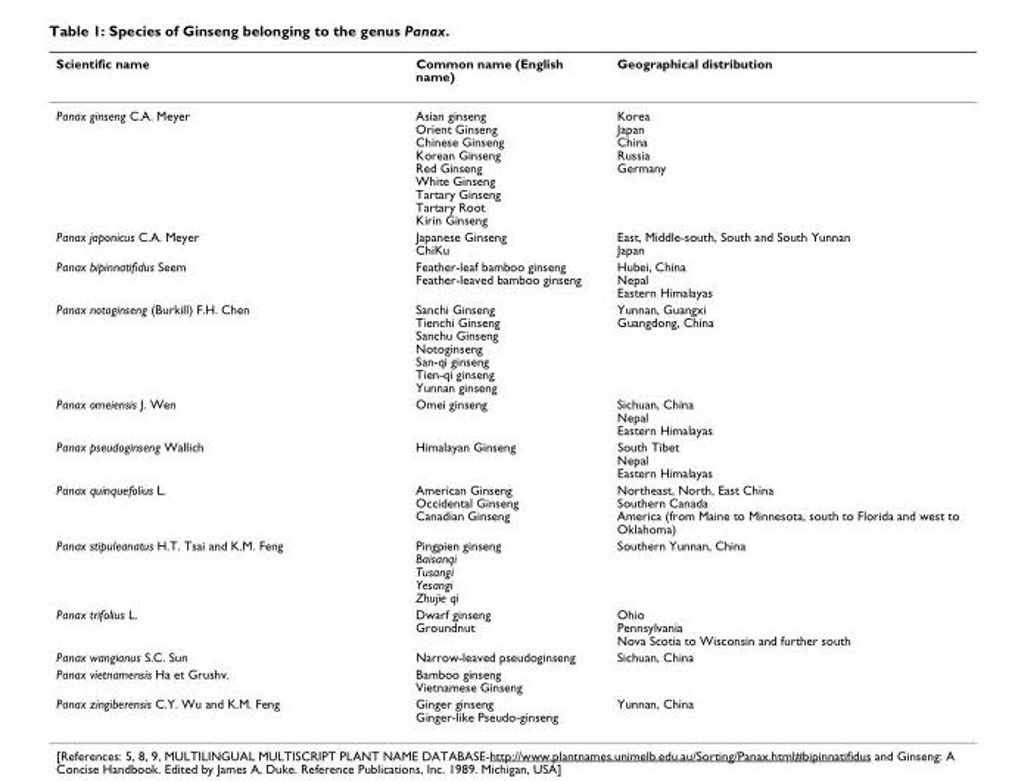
<table><thead><tr><td>Scientific name</td><td>Common name (English name)</td><td>Geographical distribution</td></tr></thead><tbody><tr><td>Panax ginseng C.A. Meyer</td><td>Asian ginseng Orient Ginseng Chinese Ginseng Korean Ginseng Red Ginseng White Ginseng Tartary Ginseng Tartary Root Kirin Ginseng</td><td>Korea Japan China Russia Germany</td></tr><tr><td>Panax japonicus C.A. Meyer</td><td>Japanese Ginseng ChiKu</td><td>East, Middle-south, South and South Yunnan Japan</td></tr><tr><td>Panax bipinnatifidus Seem</td><td>Feather-leaf bamboo ginseng Feather-leaved bamboo ginseng</td><td>Hubei, China Nepal Eastern Himalayas</td></tr><tr><td>Panax notoginseng (Burkill) F.H. Chen</td><td>Sanchi Ginseng Tienchi Ginseng Sanchu Ginseng Notoginseng San-qi ginseng Tien-qi ginseng Yunnan ginseng</td><td>Yunnan, Guangxi Guangdong, China</td></tr><tr><td>Panax omeiensis J. Wen</td><td>Omei ginseng</td><td>Sichuan, China Nepal Eastern Himalayas</td></tr><tr><td>Panax pseudoginseng Wallich</td><td>Himalayan Ginseng</td><td>South Tibet Nepal Eastern Himalayas</td></tr><tr><td>Panax quinquefolius L.</td><td>American Ginseng Occidental Ginseng Canadian Ginseng</td><td>Northeast, North, East China Southern Canada America (from Maine to Minnesota, south to Florida and west to Oklahoma)</td></tr><tr><td>Panax stipuleanatus H.T. Tsai and K.M. Feng</td><td>Pingpien ginseng Baisanqi Tusangi Yesangi Zhujie qi</td><td>Southern Yunnan, China</td></tr><tr><td>Panax trifolius L.</td><td>Dwarf ginseng Groundnut</td><td>Ohio Pennsylvania Nova Scotia to Wisconsin and further south</td></tr><tr><td>Panax wangianus S.C. Sun</td><td>Narrow-leaved pseudoginseng</td><td>Sichuan, China</td></tr><tr><td>Panax vietnamensis Ha et Grushv.</td><td>Bamboo ginseng Vietnamese Ginseng</td><td></td></tr><tr><td>Panax zingiberensis C.Y. Wu and K.M. Feng</td><td>Ginger ginseng Ginger-like Pseudo-ginseng</td><td>Yunnan, China</td></tr></tbody></table>